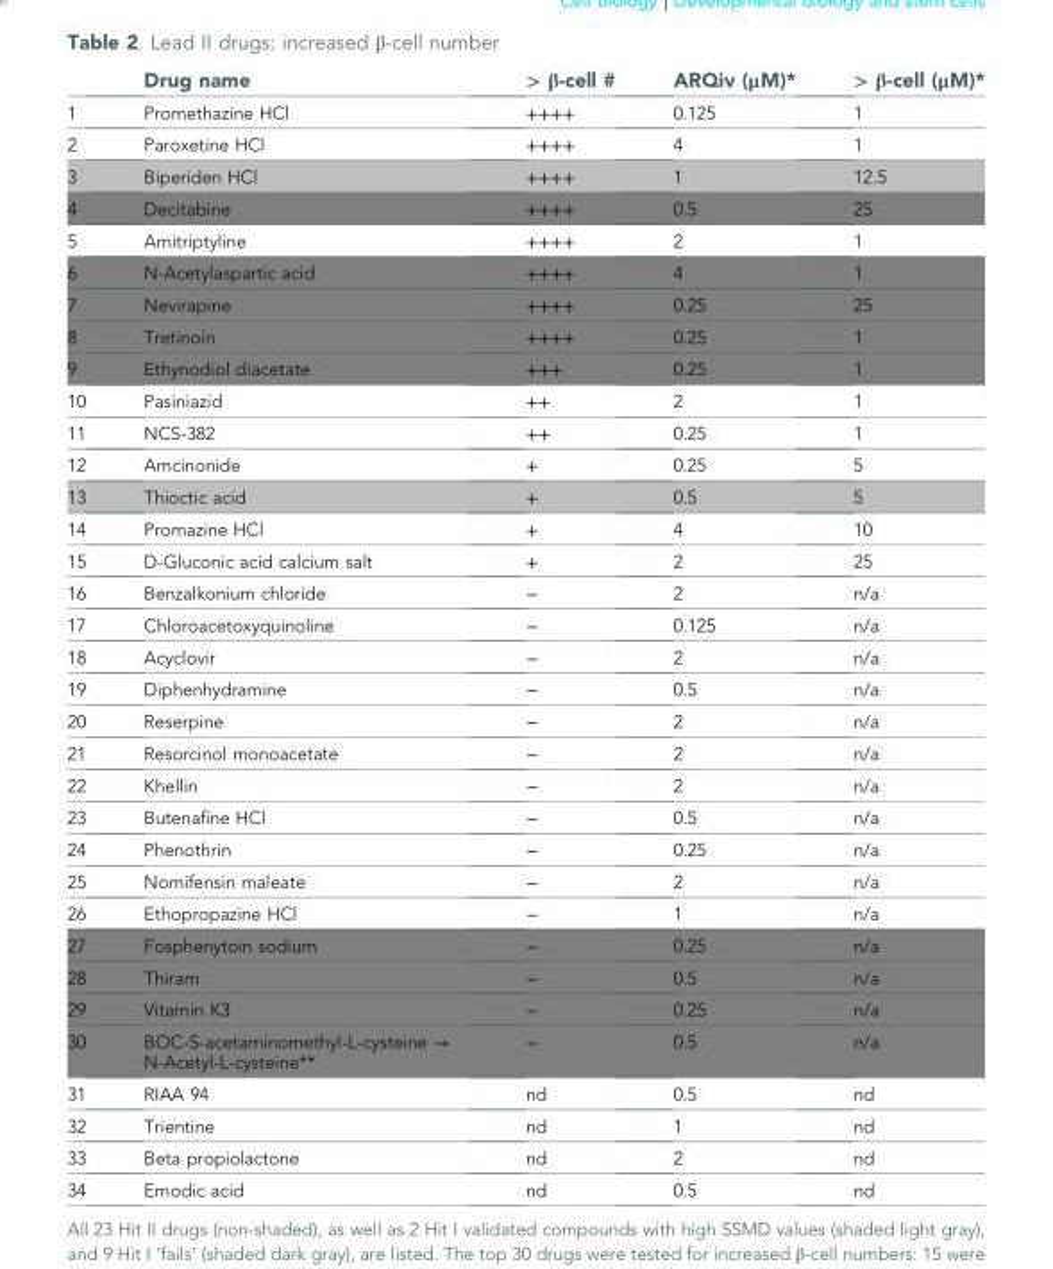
<table><thead><tr><td></td><td>Drug name</td><td>&gt; β-cell #</td><td>ARQiv (μM)*</td><td>&gt; β-cell (μM)*</td></tr></thead><tbody><tr><td>1</td><td>Promethazine HCl</td><td>++++</td><td>0.125</td><td>1</td></tr><tr><td>2</td><td>Paroxetine HCl</td><td>++++</td><td>4</td><td>1</td></tr><tr><td>3</td><td>Biperiden HCl</td><td>++++</td><td>1</td><td>12.5</td></tr><tr><td>4</td><td>Decitabine</td><td>++++</td><td>0.5</td><td>25</td></tr><tr><td>5</td><td>Amitriptyline</td><td>++++</td><td>2</td><td>1</td></tr><tr><td>6</td><td>N-Acetylaspartic acid</td><td>++++</td><td>4</td><td>1</td></tr><tr><td>7</td><td>Nevirapine</td><td>++++</td><td>0.25</td><td>25</td></tr><tr><td>8</td><td>Tretinoin</td><td>++++</td><td>0.25</td><td>1</td></tr><tr><td>9</td><td>Ethynodiol diacetate</td><td>+++</td><td>0.25</td><td>1</td></tr><tr><td>10</td><td>Pasiniazid</td><td>++</td><td>2</td><td>1</td></tr><tr><td>11</td><td>NCS-382</td><td>++</td><td>0.25</td><td>1</td></tr><tr><td>12</td><td>Amcinonide</td><td>+</td><td>0.25</td><td>5</td></tr><tr><td>13</td><td>Thioctic acid</td><td>+</td><td>0.5</td><td>5</td></tr><tr><td>14</td><td>Promazine HCl</td><td>+</td><td>4</td><td>10</td></tr><tr><td>15</td><td>D-Gluconic acid calcium salt</td><td>+</td><td>2</td><td>25</td></tr><tr><td>16</td><td>Benzalkonium chloride</td><td>−</td><td>2</td><td>n/a</td></tr><tr><td>17</td><td>Chloroacetoxyquinoline</td><td>−</td><td>0.125</td><td>n/a</td></tr><tr><td>18</td><td>Acyclovir</td><td>−</td><td>2</td><td>n/a</td></tr><tr><td>19</td><td>Diphenhydramine</td><td>−</td><td>0.5</td><td>n/a</td></tr><tr><td>20</td><td>Reserpine</td><td>−</td><td>2</td><td>n/a</td></tr><tr><td>21</td><td>Resorcinol monoacetate</td><td>−</td><td>2</td><td>n/a</td></tr><tr><td>22</td><td>Khellin</td><td>−</td><td>2</td><td>n/a</td></tr><tr><td>23</td><td>Butenafine HCl</td><td>−</td><td>0.5</td><td>n/a</td></tr><tr><td>24</td><td>Phenothrin</td><td>−</td><td>0.25</td><td>n/a</td></tr><tr><td>25</td><td>Nomifensin maleate</td><td>−</td><td>2</td><td>n/a</td></tr><tr><td>26</td><td>Ethopropazine HCl</td><td>−</td><td>1</td><td>n/a</td></tr><tr><td>27</td><td>Fosphenytoin sodium</td><td>−</td><td>0.25</td><td>n/a</td></tr><tr><td>28</td><td>Thiram</td><td>−</td><td>0.5</td><td>n/a</td></tr><tr><td>29</td><td>Vitamin K3</td><td>−</td><td>0.25</td><td>n/a</td></tr><tr><td>30</td><td>BOC-S-acetaminomethyl-L-cysteine → N-Acetyl-L-cysteine**</td><td>−</td><td>0.5</td><td>n/a</td></tr><tr><td>31</td><td>RIAA 94</td><td>nd</td><td>0.5</td><td>nd</td></tr><tr><td>32</td><td>Trientine</td><td>nd</td><td>1</td><td>nd</td></tr><tr><td>33</td><td>Beta propiolactone</td><td>nd</td><td>2</td><td>nd</td></tr><tr><td>34</td><td>Emodic acid</td><td>nd</td><td>0.5</td><td>nd</td></tr></tbody></table>